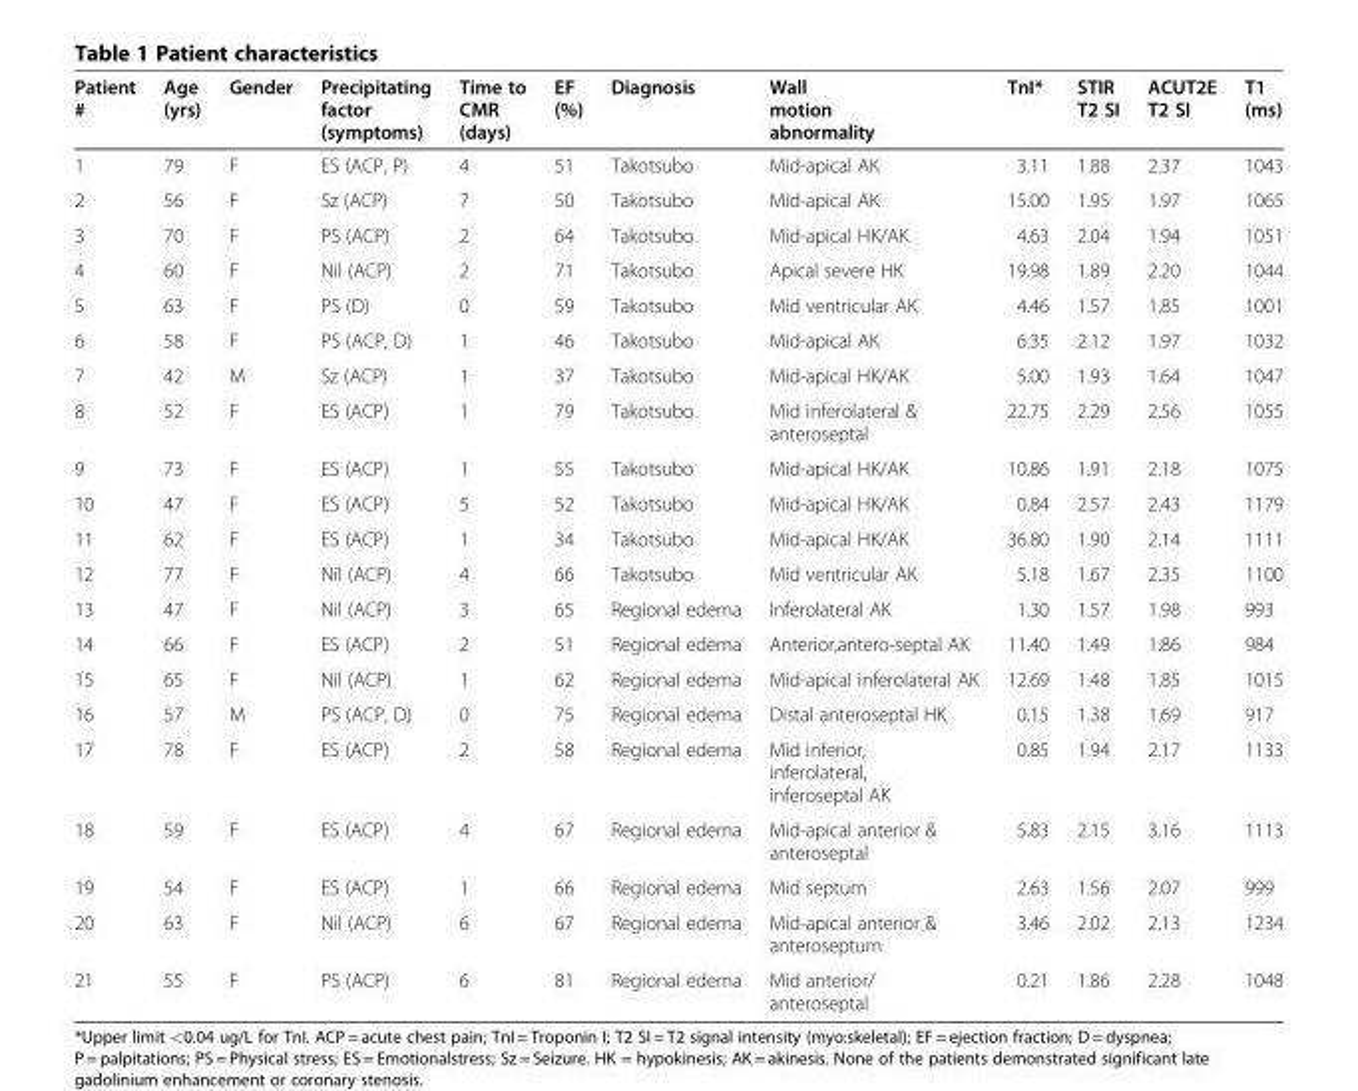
<table><thead><tr><td>Patient #</td><td>Age (yrs)</td><td>Gender</td><td>Precipitating factor (symptoms)</td><td>Time to CMR (days)</td><td>EF (%)</td><td>Diagnosis</td><td>Wall motion abnormality</td><td>TnI*</td><td>STIR T2 SI</td><td>ACUT2E T2 SI</td><td>T1 (ms)</td></tr></thead><tbody><tr><td>1</td><td>79</td><td>F</td><td>ES (ACP, P)</td><td>4</td><td>51</td><td>Takotsubo</td><td>Mid-apical AK</td><td>3.11</td><td>1.88</td><td>2.37</td><td>1043</td></tr><tr><td>2</td><td>56</td><td>F</td><td>Sz (ACP)</td><td>7</td><td>50</td><td>Takotsubo</td><td>Mid-apical AK</td><td>15.00</td><td>1.95</td><td>1.97</td><td>1065</td></tr><tr><td>3</td><td>70</td><td>F</td><td>PS (ACP)</td><td>2</td><td>64</td><td>Takotsubo</td><td>Mid-apical HK/AK</td><td>4.63</td><td>2.04</td><td>1.94</td><td>1051</td></tr><tr><td>4</td><td>60</td><td>F</td><td>Nil (ACP)</td><td>2</td><td>71</td><td>Takotsubo</td><td>Apical severe HK</td><td>19.98</td><td>1.89</td><td>2.20</td><td>1044</td></tr><tr><td>5</td><td>63</td><td>F</td><td>PS (D)</td><td>0</td><td>59</td><td>Takotsubo</td><td>Mid ventricular AK</td><td>4.46</td><td>1.57</td><td>1.85</td><td>1001</td></tr><tr><td>6</td><td>58</td><td>F</td><td>PS (ACP, D)</td><td>1</td><td>46</td><td>Takotsubo</td><td>Mid-apical AK</td><td>6.35</td><td>2.12</td><td>1.97</td><td>1032</td></tr><tr><td>7</td><td>42</td><td>M</td><td>Sz (ACP)</td><td>1</td><td>37</td><td>Takotsubo</td><td>Mid-apical HK/AK</td><td>5.00</td><td>1.93</td><td>1.64</td><td>1047</td></tr><tr><td>8</td><td>52</td><td>F</td><td>ES (ACP)</td><td>1</td><td>79</td><td>Takotsubo</td><td>Mid inferolateral &amp; anteroseptal</td><td>22.75</td><td>2.29</td><td>2.56</td><td>1055</td></tr><tr><td>9</td><td>73</td><td>F</td><td>ES (ACP)</td><td>1</td><td>55</td><td>Takotsubo</td><td>Mid-apical HK/AK</td><td>10.86</td><td>1.91</td><td>2.18</td><td>1075</td></tr><tr><td>10</td><td>47</td><td>F</td><td>ES (ACP)</td><td>5</td><td>52</td><td>Takotsubo</td><td>Mid-apical HK/AK</td><td>0.84</td><td>2.57</td><td>2.43</td><td>1179</td></tr><tr><td>11</td><td>62</td><td>F</td><td>ES (ACP)</td><td>1</td><td>34</td><td>Takotsubo</td><td>Mid-apical HK/AK</td><td>36.80</td><td>1.90</td><td>2.14</td><td>1111</td></tr><tr><td>12</td><td>77</td><td>F</td><td>Nil (ACP)</td><td>4</td><td>66</td><td>Takotsubo</td><td>Mid ventricular AK</td><td>5.18</td><td>1.67</td><td>2.35</td><td>1100</td></tr><tr><td>13</td><td>47</td><td>F</td><td>Nil (ACP)</td><td>3</td><td>65</td><td>Regional edema</td><td>Inferolateral AK</td><td>1.30</td><td>1.57</td><td>1.98</td><td>993</td></tr><tr><td>14</td><td>66</td><td>F</td><td>ES (ACP)</td><td>2</td><td>51</td><td>Regional edema</td><td>Anterior,antero-septal AK</td><td>11.40</td><td>1.49</td><td>1.86</td><td>984</td></tr><tr><td>15</td><td>65</td><td>F</td><td>Nil (ACP)</td><td>1</td><td>62</td><td>Regional edema</td><td>Mid-apical inferolateral AK</td><td>12.69</td><td>1.48</td><td>1.85</td><td>1015</td></tr><tr><td>16</td><td>57</td><td>M</td><td>PS (ACP, D)</td><td>0</td><td>75</td><td>Regional edema</td><td>Distal anteroseptal HK</td><td>0.15</td><td>1.38</td><td>1.69</td><td>917</td></tr><tr><td>17</td><td>78</td><td>F</td><td>ES (ACP)</td><td>2</td><td>58</td><td>Regional edema</td><td>Mid inferior, inferolateral, inferoseptal AK</td><td>0.85</td><td>1.94</td><td>2.17</td><td>1133</td></tr><tr><td>18</td><td>59</td><td>F</td><td>ES (ACP)</td><td>4</td><td>67</td><td>Regional edema</td><td>Mid-apical anterior &amp; anteroseptal</td><td>5.83</td><td>2.15</td><td>3.16</td><td>1113</td></tr><tr><td>19</td><td>54</td><td>F</td><td>ES (ACP)</td><td>1</td><td>66</td><td>Regional edema</td><td>Mid septum</td><td>2.63</td><td>1.56</td><td>2.07</td><td>999</td></tr><tr><td>20</td><td>63</td><td>F</td><td>Nil (ACP)</td><td>6</td><td>67</td><td>Regional edema</td><td>Mid-apical anterior &amp; anteroseptum</td><td>3.46</td><td>2.02</td><td>2.13</td><td>1234</td></tr><tr><td>21</td><td>55</td><td>F</td><td>PS (ACP)</td><td>6</td><td>81</td><td>Regional edema</td><td>Mid anterior/ anteroseptal</td><td>0.21</td><td>1.86</td><td>2.28</td><td>1048</td></tr></tbody></table>